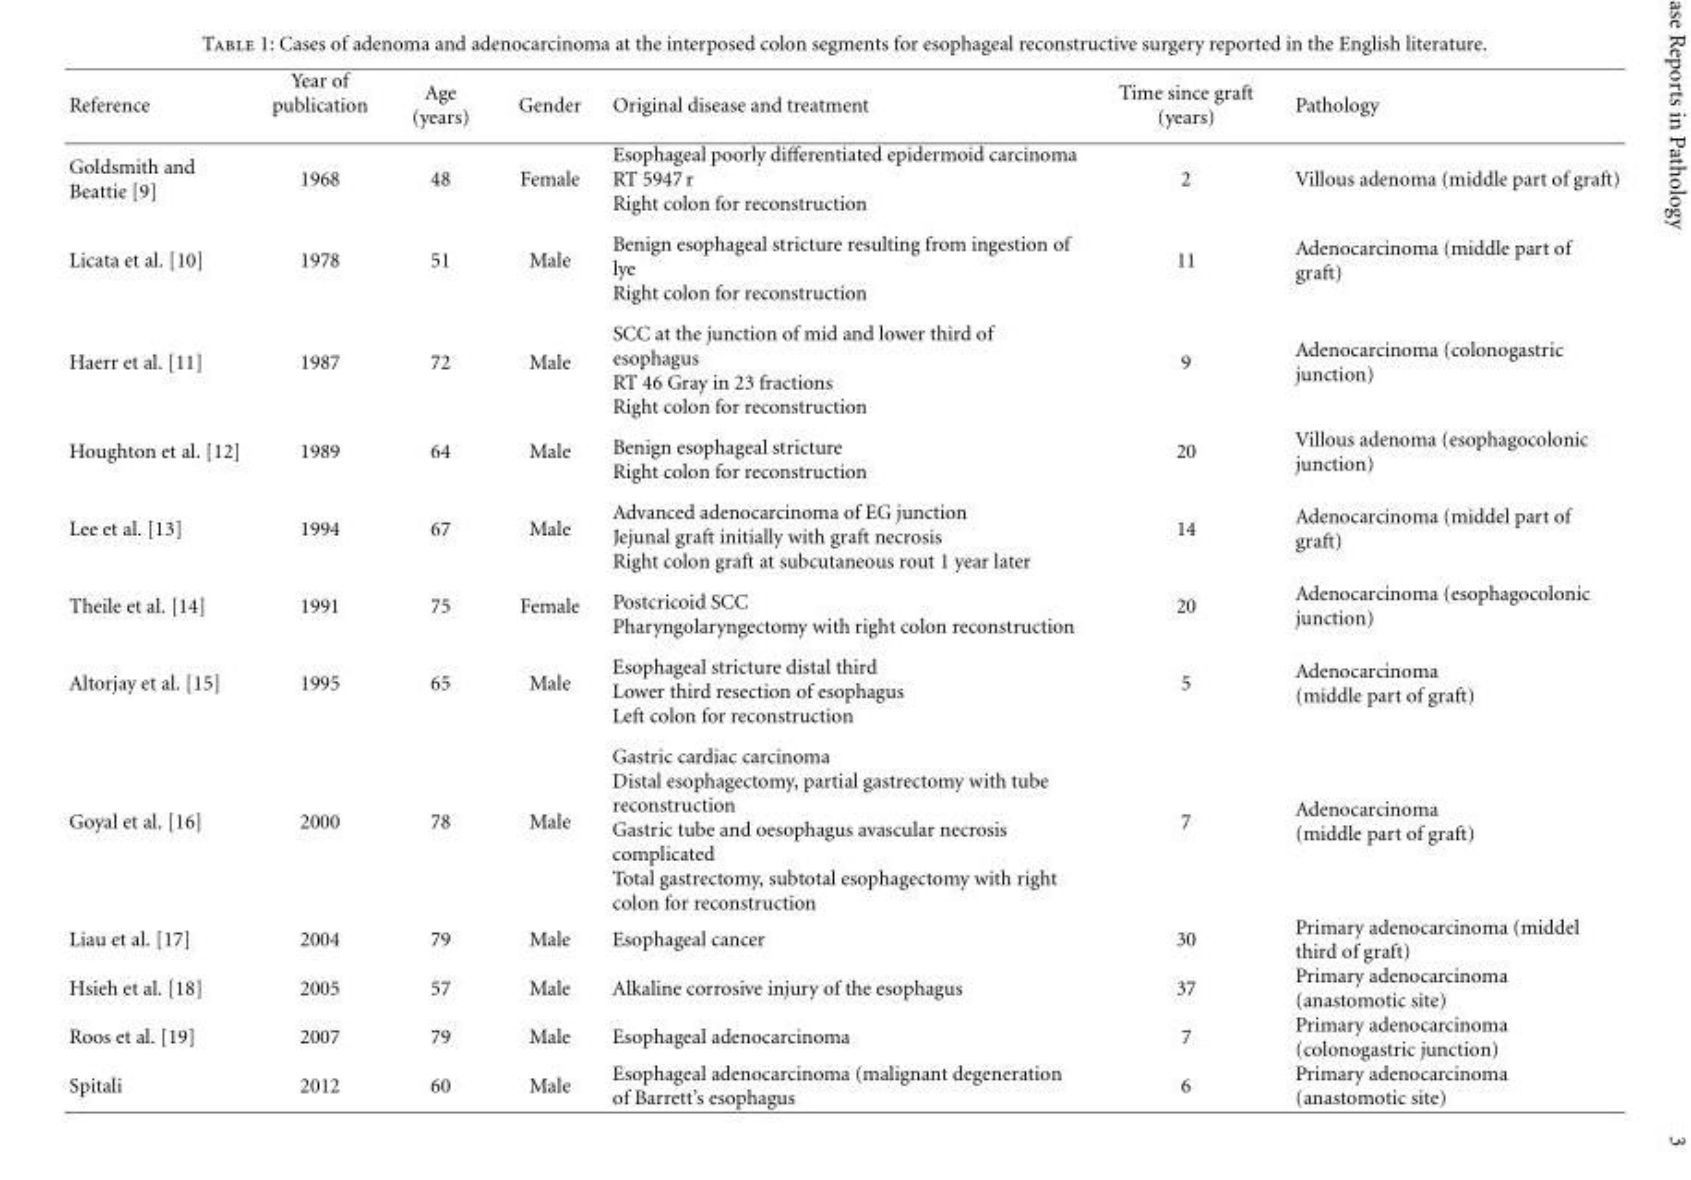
<table><thead><tr><td>Reference</td><td>Year of publication</td><td>Age (years)</td><td>Gender</td><td>Original disease and treatment</td><td>Time since graft (years)</td><td>Pathology</td></tr></thead><tbody><tr><td>Goldsmith and Beattie [9]</td><td>1968</td><td>48</td><td>Female</td><td>Esophageal poorly differentiated epidermoid carcinoma RT 5947 r Right colon for reconstruction</td><td>2</td><td>Villous adenoma (middle part of graft)</td></tr><tr><td>Licata et al. [10]</td><td>1978</td><td>51</td><td>Male</td><td>Benign esophageal stricture resulting from ingestion of lye Right colon for reconstruction</td><td>11</td><td>Adenocarcinoma (middle part of graft)</td></tr><tr><td>Haerr et al. [11]</td><td>1987</td><td>72</td><td>Male</td><td>SCC at the junction of mid and lower third of esophagus RT 46 Gray in 23 fractions Right colon for reconstruction</td><td>9</td><td>Adenocarcinoma (colonogastric junction)</td></tr><tr><td>Houghton et al. [12]</td><td>1989</td><td>64</td><td>Male</td><td>Benign esophageal stricture Right colon for reconstruction</td><td>20</td><td>Villous adenoma (esophagocolonic junction)</td></tr><tr><td>Lee et al. [13]</td><td>1994</td><td>67</td><td>Male</td><td>Advanced adenocarcinoma of EG junction Jejunal graft initially with graft necrosis Right colon graft at subcutaneous rout 1 year later</td><td>14</td><td>Adenocarcinoma (middel part of graft)</td></tr><tr><td>Theile et al. [14]</td><td>1991</td><td>75</td><td>Female</td><td>Postcricoid SCC Pharyngolaryngectomy with right colon reconstruction</td><td>20</td><td>Adenocarcinoma (esophagocolonic junction)</td></tr><tr><td>Altorjay et al. [15]</td><td>1995</td><td>65</td><td>Male</td><td>Esophageal stricture distal third Lower third resection of esophagus Left colon for reconstruction</td><td>5</td><td>Adenocarcinoma (middle part of graft)</td></tr><tr><td>Goyal et al. [16]</td><td>2000</td><td>78</td><td>Male</td><td>Gastric cardiac carcinoma Distal esophagectomy, partial gastrectomy with tube reconstruction Gastric tube and oesophagus avascular necrosis complicated Total gastrectomy, subtotal esophagectomy with right colon for reconstruction</td><td>7</td><td>Adenocarcinoma (middle part of graft)</td></tr><tr><td>Liau et al. [17]</td><td>2004</td><td>79</td><td>Male</td><td>Esophageal cancer</td><td>30</td><td>Primary adenocarcinoma (middel third of graft)</td></tr><tr><td>Hsieh et al. [18]</td><td>2005</td><td>57</td><td>Male</td><td>Alkaline corrosive injury of the esophagus</td><td>37</td><td>Primary adenocarcinoma (anastomotic site)</td></tr><tr><td>Roos et al. [19]</td><td>2007</td><td>79</td><td>Male</td><td>Esophageal adenocarcinoma</td><td>7</td><td>Primary adenocarcinoma (colonogastric junction)</td></tr><tr><td>Spitali</td><td>2012</td><td>60</td><td>Male</td><td>Esophageal adenocarcinoma (malignant degeneration of Barrett’s esophagus</td><td>6</td><td>Primary adenocarcinoma (anastomotic site)</td></tr></tbody></table>